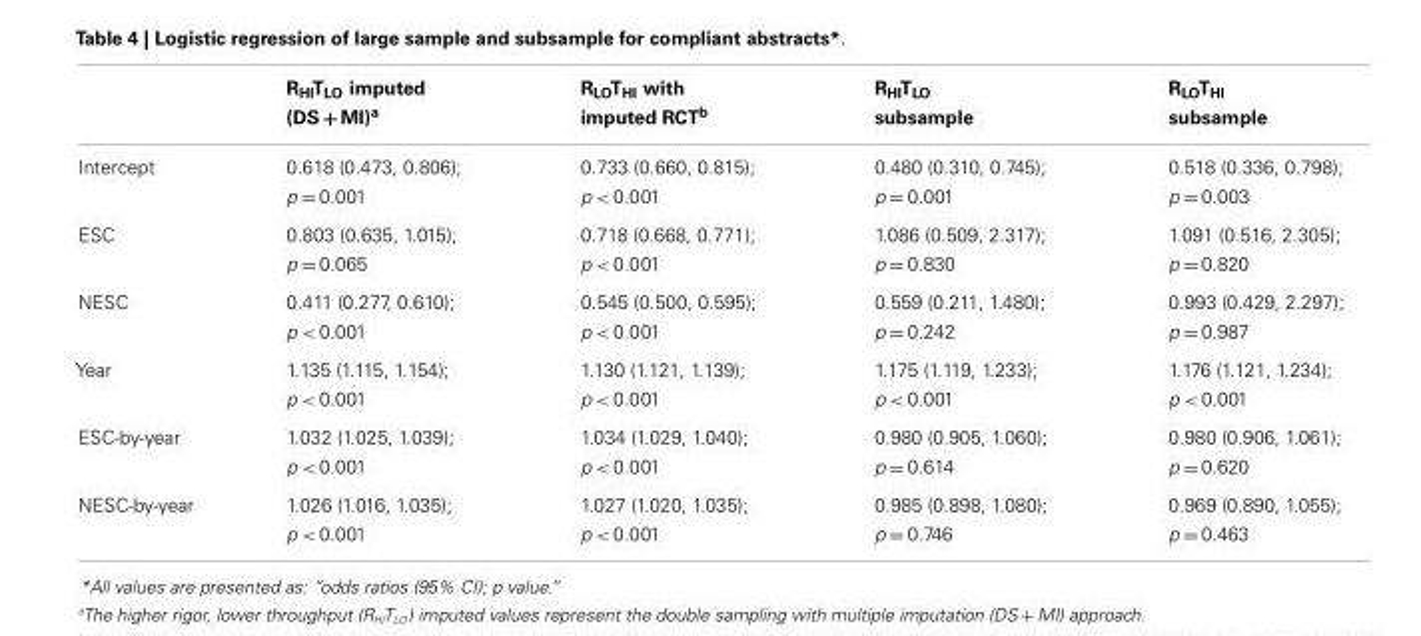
<table><thead><tr><td></td><td>R<sub>HI</sub>T<sub>LO</sub> imputed (DS + MI)<sup>a</sup></td><td>R<sub>LO</sub>T<sub>HI</sub> with imputed RCT<sup>b</sup></td><td>R<sub>HI</sub>T<sub>LO</sub> subsample</td><td>R<sub>LO</sub>T<sub>HI</sub> subsample</td></tr></thead><tbody><tr><td>Intercept</td><td>0.618 (0.473, 0.806); p = 0.001</td><td>0.733 (0.660, 0.815); p &lt; 0.001</td><td>0.480 (0.310, 0.745); p = 0.001</td><td>0.518 (0.336, 0.798); p = 0.003</td></tr><tr><td>ESC</td><td>0.803 (0.635, 1.015); p = 0.065</td><td>0.718 (0.668, 0.771); p &lt; 0.001</td><td>1.086 (0.509, 2.317); p = 0.830</td><td>1.091 (0.516, 2.305); p = 0.820</td></tr><tr><td>NESC</td><td>0.411 (0.277, 0.610); p &lt; 0.001</td><td>0.545 (0.500, 0.595); p &lt; 0.001</td><td>0.559 (0.211, 1.480); p = 0.242</td><td>0.993 (0.429, 2.297); p = 0.987</td></tr><tr><td>Year</td><td>1.135 (1.115, 1.154); p &lt; 0.001</td><td>1.130 (1.121, 1.139); p &lt; 0.001</td><td>1.175 (1.119, 1.233); p &lt; 0.001</td><td>1.176 (1.121, 1.234); p &lt; 0.001</td></tr><tr><td>ESC-by-year</td><td>1.032 (1.025, 1.039); p &lt; 0.001</td><td>1.034 (1.029, 1.040); p &lt; 0.001</td><td>0.980 (0.905, 1.060); p = 0.614</td><td>0.980 (0.906, 1.061); p = 0.620</td></tr><tr><td>NESC-by-year</td><td>1.026 (1.016, 1.035); p &lt; 0.001</td><td>1.027 (1.020, 1.035); p &lt; 0.001</td><td>0.985 (0.898, 1.080); p = 0.746</td><td>0.969 (0.890, 1.055); p = 0.463</td></tr></tbody></table>